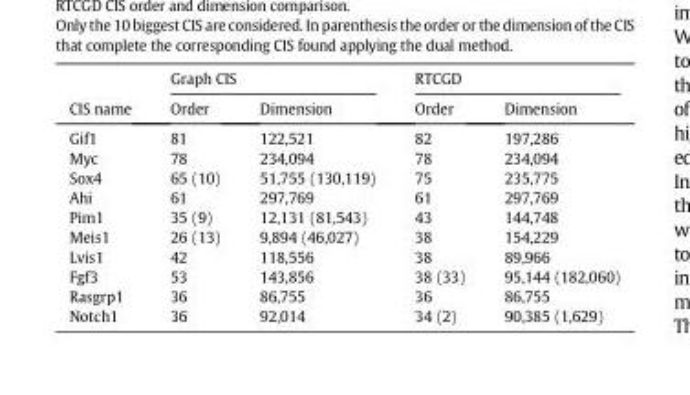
<table><thead><tr><td rowspan="2">CIS name</td><td colspan="2">Graph CIS</td><td colspan="2">RTCGD</td></tr><tr><td>Order</td><td>Dimension</td><td>Order</td><td>Dimension</td></tr></thead><tbody><tr><td>Gif1</td><td>81</td><td>122,521</td><td>82</td><td>197,286</td></tr><tr><td>Myc</td><td>78</td><td>234,094</td><td>78</td><td>234,094</td></tr><tr><td>Sox4</td><td>65 (10)</td><td>51,755 (130,119)</td><td>75</td><td>235,775</td></tr><tr><td>Ahi</td><td>61</td><td>297,769</td><td>61</td><td>297,769</td></tr><tr><td>Pim1</td><td>35 (9)</td><td>12,131 (81,543)</td><td>43</td><td>144,748</td></tr><tr><td>Meis1</td><td>26 (13)</td><td>9,894 (46,027)</td><td>38</td><td>154,229</td></tr><tr><td>Lvis1</td><td>42</td><td>118,556</td><td>38</td><td>89,966</td></tr><tr><td>Fgf3</td><td>53</td><td>143,856</td><td>38 (33)</td><td>95,144 (182,060)</td></tr><tr><td>Rasgrp1</td><td>36</td><td>86,755</td><td>36</td><td>86,755</td></tr><tr><td>Notch1</td><td>36</td><td>92,014</td><td>34 (2)</td><td>90,385 (1,629)</td></tr></tbody></table>